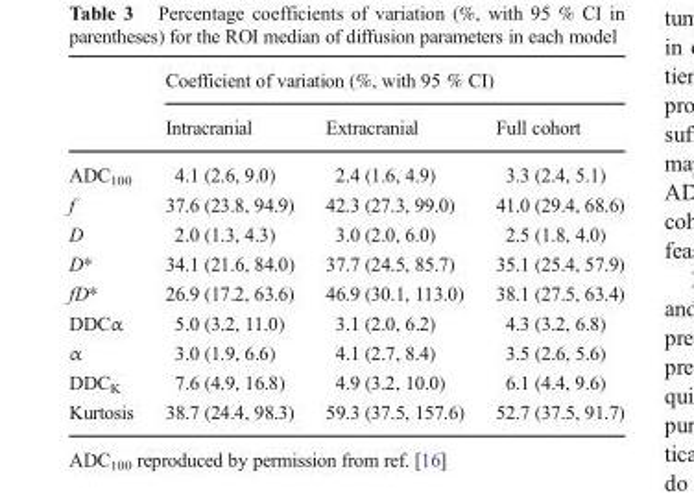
<table><thead><tr><td rowspan="2"></td><td colspan="3">Coefficient of variation (%, with 95 % CI)</td></tr><tr><td>Intracranial</td><td>Extracranial</td><td>Full cohort</td></tr></thead><tbody><tr><td>ADC<sub>100</sub></td><td>4.1 (2.6, 9.0)</td><td>2.4 (1.6, 4.9)</td><td>3.3 (2.4, 5.1)</td></tr><tr><td>f</td><td>37.6 (23.8, 94.9)</td><td>42.3 (27.3, 99.0)</td><td>41.0 (29.4, 68.6)</td></tr><tr><td>D</td><td>2.0 (1.3, 4.3)</td><td>3.0 (2.0, 6.0)</td><td>2.5 (1.8, 4.0)</td></tr><tr><td>D*</td><td>34.1 (21.6, 84.0)</td><td>37.7 (24.5, 85.7)</td><td>35.1 (25.4, 57.9)</td></tr><tr><td>fD*</td><td>26.9 (17.2, 63.6)</td><td>46.9 (30.1, 113.0)</td><td>38.1 (27.5, 63.4)</td></tr><tr><td>DDCα</td><td>5.0 (3.2, 11.0)</td><td>3.1 (2.0, 6.2)</td><td>4.3 (3.2, 6.8)</td></tr><tr><td>α</td><td>3.0 (1.9, 6.6)</td><td>4.1 (2.7, 8.4)</td><td>3.5 (2.6, 5.6)</td></tr><tr><td>DDC<sub>K</sub></td><td>7.6 (4.9, 16.8)</td><td>4.9 (3.2, 10.0)</td><td>6.1 (4.4, 9.6)</td></tr><tr><td>Kurtosis</td><td>38.7 (24.4, 98.3)</td><td>59.3 (37.5, 157.6)</td><td>52.7 (37.5, 91.7)</td></tr></tbody></table>